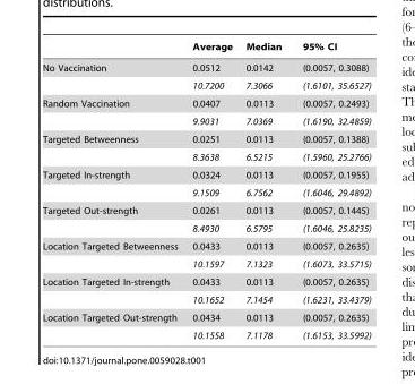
<table><thead><tr><td></td><td>Average</td><td>Median</td><td>95% CI</td></tr></thead><tbody><tr><td rowspan="2">No Vaccination</td><td>0.0512</td><td>0.0142</td><td>(0.0057, 0.3088)</td></tr><tr><td>10.7200</td><td>7.3066</td><td>(1.6101, 35.6527)</td></tr><tr><td rowspan="2">Random Vaccination</td><td>0.0407</td><td>0.0113</td><td>(0.0057, 0.2493)</td></tr><tr><td>9.9031</td><td>7.0369</td><td>(1.6190, 32.4859)</td></tr><tr><td rowspan="2">Targeted Betweenness</td><td>0.0251</td><td>0.0113</td><td>(0.0057, 0.1388)</td></tr><tr><td>8.3638</td><td>6.5215</td><td>(1.5960, 25.2766)</td></tr><tr><td rowspan="2">Targeted In-strength</td><td>0.0324</td><td>0.0113</td><td>(0.0057, 0.1955)</td></tr><tr><td>9.1509</td><td>6.7562</td><td>(1.6046, 29.4892)</td></tr><tr><td rowspan="2">Targeted Out-strength</td><td>0.0261</td><td>0.0113</td><td>(0.0057, 0.1445)</td></tr><tr><td>8.4930</td><td>6.5795</td><td>(1.6046, 25.8235)</td></tr><tr><td rowspan="2">Location Targeted Betweenness</td><td>0.0433</td><td>0.0113</td><td>(0.0057, 0.2635)</td></tr><tr><td>10.1597</td><td>7.1323</td><td>(1.6073, 33.5715)</td></tr><tr><td rowspan="2">Location Targeted In-strength</td><td>0.0433</td><td>0.0113</td><td>(0.0057, 0.2635)</td></tr><tr><td>10.1652</td><td>7.1454</td><td>(1.6231, 33.4379)</td></tr><tr><td rowspan="2">Location Targeted Out-strength</td><td>0.0434</td><td>0.0113</td><td>(0.0057, 0.2635)</td></tr><tr><td>10.1558</td><td>7.1178</td><td>(1.6153, 33.5992)</td></tr></tbody></table>